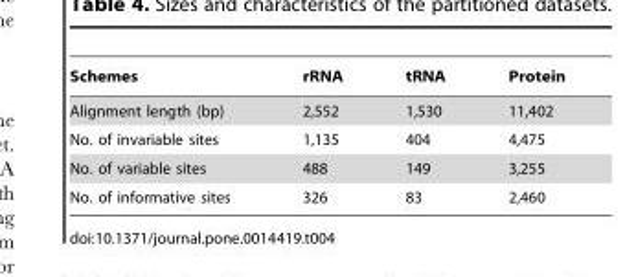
<table><thead><tr><td>Schemes</td><td>rRNA</td><td>tRNA</td><td>Protein</td></tr></thead><tbody><tr><td>Alignment length (bp)</td><td>2,552</td><td>1,530</td><td>11,402</td></tr><tr><td>No. of invariable sites</td><td>1,135</td><td>404</td><td>4,475</td></tr><tr><td>No. of variable sites</td><td>488</td><td>149</td><td>3,255</td></tr><tr><td>No. of informative sites</td><td>326</td><td>83</td><td>2,460</td></tr></tbody></table>